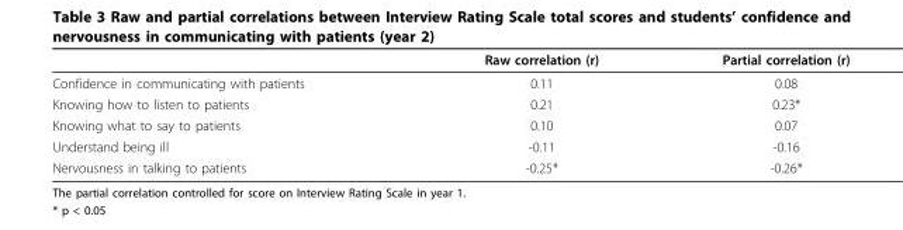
<table><thead><tr><td></td><td>Raw correlation (r)</td><td>Partial correlation (r)</td></tr></thead><tbody><tr><td>Confidence in communicating with patients</td><td>0.11</td><td>0.08</td></tr><tr><td>Knowing how to listen to patients</td><td>0.21</td><td>0.23*</td></tr><tr><td>Knowing what to say to patients</td><td>0.10</td><td>0.07</td></tr><tr><td>Understand being ill</td><td>-0.11</td><td>-0.16</td></tr><tr><td>Nervousness in talking to patients</td><td>-0.25*</td><td>-0.26*</td></tr></tbody></table>